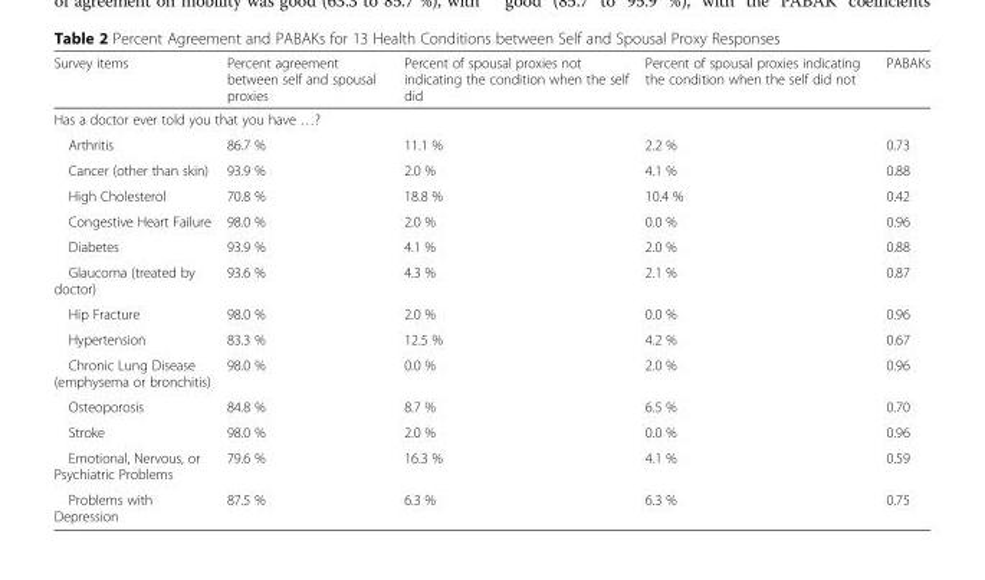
<table><thead><tr><td>Survey items</td><td>Percent agreement between self and spousal proxies</td><td>Percent of spousal proxies not indicating the condition when the self did</td><td>Percent of spousal proxies indicating the condition when the self did not</td><td>PABAKs</td></tr></thead><tbody><tr><td colspan="5">Has a doctor ever told you that you have …?</td></tr><tr><td>Arthritis</td><td>86.7 %</td><td>11.1 %</td><td>2.2 %</td><td>0.73</td></tr><tr><td>Cancer (other than skin)</td><td>93.9 %</td><td>2.0 %</td><td>4.1 %</td><td>0.88</td></tr><tr><td>High Cholesterol</td><td>70.8 %</td><td>18.8 %</td><td>10.4 %</td><td>0.42</td></tr><tr><td>Congestive Heart Failure</td><td>98.0 %</td><td>2.0 %</td><td>0.0 %</td><td>0.96</td></tr><tr><td>Diabetes</td><td>93.9 %</td><td>4.1 %</td><td>2.0 %</td><td>0.88</td></tr><tr><td>Glaucoma (treated by doctor)</td><td>93.6 %</td><td>4.3 %</td><td>2.1 %</td><td>0.87</td></tr><tr><td>Hip Fracture</td><td>98.0 %</td><td>2.0 %</td><td>0.0 %</td><td>0.96</td></tr><tr><td>Hypertension</td><td>83.3 %</td><td>12.5 %</td><td>4.2 %</td><td>0.67</td></tr><tr><td>Chronic Lung Disease (emphysema or bronchitis)</td><td>98.0 %</td><td>0.0 %</td><td>2.0 %</td><td>0.96</td></tr><tr><td>Osteoporosis</td><td>84.8 %</td><td>8.7 %</td><td>6.5 %</td><td>0.70</td></tr><tr><td>Stroke</td><td>98.0 %</td><td>2.0 %</td><td>0.0 %</td><td>0.96</td></tr><tr><td>Emotional, Nervous, or Psychiatric Problems</td><td>79.6 %</td><td>16.3 %</td><td>4.1 %</td><td>0.59</td></tr><tr><td>Problems with Depression</td><td>87.5 %</td><td>6.3 %</td><td>6.3 %</td><td>0.75</td></tr></tbody></table>